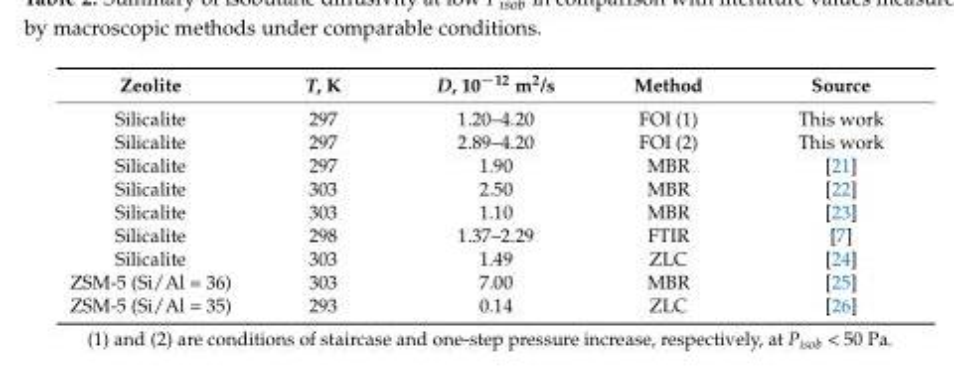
<table><thead><tr><td>Zeolite</td><td>T, K</td><td>D, 10<sup>−12</sup> m<sup>2</sup>/s</td><td>Method</td><td>Source</td></tr></thead><tbody><tr><td>Silicalite</td><td>297</td><td>1.20–4.20</td><td>FOI (1)</td><td>This work</td></tr><tr><td>Silicalite</td><td>297</td><td>2.89–4.20</td><td>FOI (2)</td><td>This work</td></tr><tr><td>Silicalite</td><td>297</td><td>1.90</td><td>MBR</td><td>[21]</td></tr><tr><td>Silicalite</td><td>303</td><td>2.50</td><td>MBR</td><td>[22]</td></tr><tr><td>Silicalite</td><td>303</td><td>1.10</td><td>MBR</td><td>[23]</td></tr><tr><td>Silicalite</td><td>298</td><td>1.37–2.29</td><td>FTIR</td><td>[7]</td></tr><tr><td>Silicalite</td><td>303</td><td>1.49</td><td>ZLC</td><td>[24]</td></tr><tr><td>ZSM-5 (Si/Al = 36)</td><td>303</td><td>7.00</td><td>MBR</td><td>[25]</td></tr><tr><td>ZSM-5 (Si/Al = 35)</td><td>293</td><td>0.14</td><td>ZLC</td><td>[26]</td></tr></tbody></table>